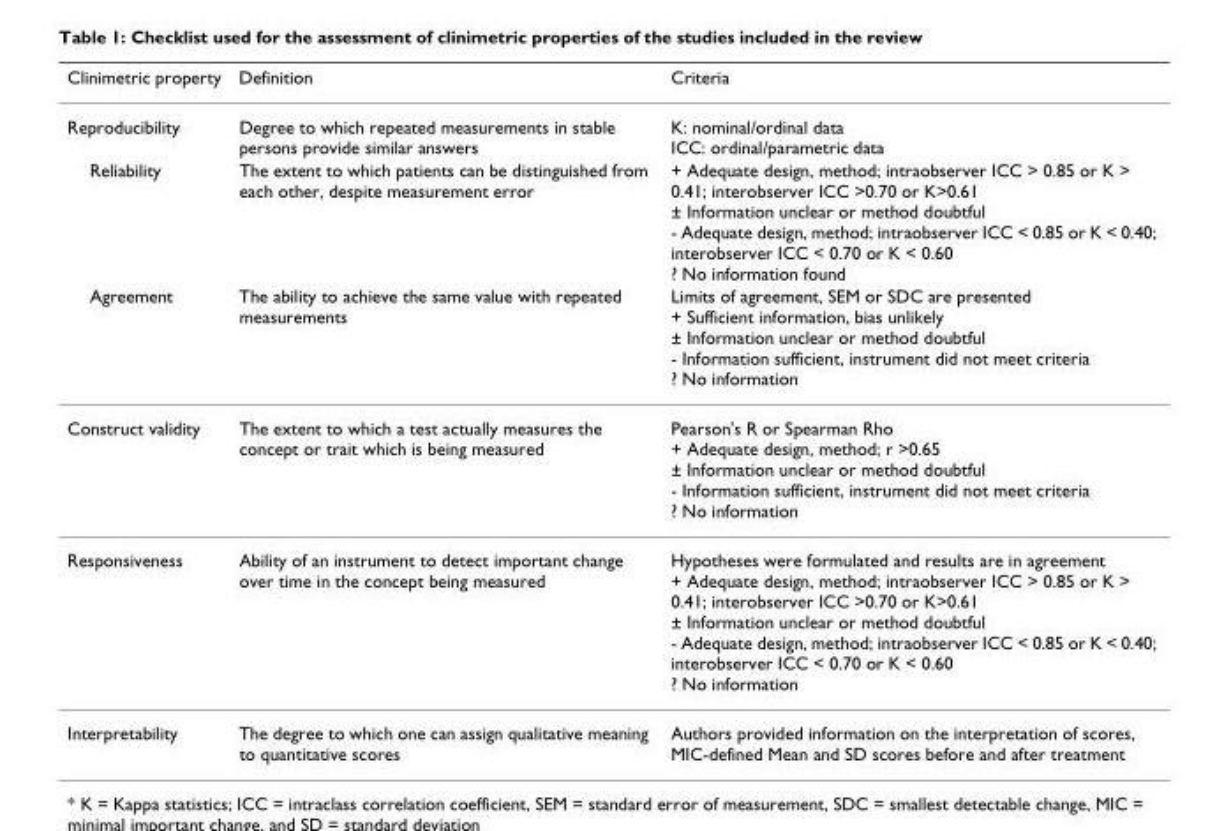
<table><thead><tr><td>Clinimetric property</td><td>Definition</td><td>Criteria</td></tr></thead><tbody><tr><td>Reproducibility</td><td>Degree to which repeated measurements in stable persons provide similar answers</td><td>K: nominal/ordinal data ICC: ordinal/parametric data</td></tr><tr><td>Reliability</td><td>The extent to which patients can be distinguished from each other, despite measurement error</td><td>+ Adequate design, method; intraobserver ICC &gt; 0.85 or K &gt; 0.41; interobserver ICC &gt;0.70 or K&gt;0.61 ± Information unclear or method doubtful - Adequate design, method; intraobserver ICC &lt; 0.85 or K &lt; 0.40; interobserver ICC &lt; 0.70 or K &lt; 0.60 ? No information found</td></tr><tr><td>Agreement</td><td>The ability to achieve the same value with repeated measurements</td><td>Limits of agreement, SEM or SDC are presented + Sufficient information, bias unlikely ± Information unclear or method doubtful - Information sufficient, instrument did not meet criteria ? No information</td></tr><tr><td>Construct validity</td><td>The extent to which a test actually measures the concept or trait which is being measured</td><td>Pearson&#x27;s R or Spearman Rho + Adequate design, method; r &gt;0.65 ± Information unclear or method doubtful - Information sufficient, instrument did not meet criteria ? No information</td></tr><tr><td>Responsiveness</td><td>Ability of an instrument to detect important change over time in the concept being measured</td><td>Hypotheses were formulated and results are in agreement + Adequate design, method; intraobserver ICC &gt; 0.85 or K &gt; 0.41; interobserver ICC &gt;0.70 or K&gt;0.61 ± Information unclear or method doubtful - Adequate design, method; intraobserver ICC &lt; 0.85 or K &lt; 0.40; interobserver ICC &lt; 0.70 or K &lt; 0.60 ? No information</td></tr><tr><td>Interpretability</td><td>The degree to which one can assign qualitative meaning to quantitative scores</td><td>Authors provided information on the interpretation of scores, MIC-defined Mean and SD scores before and after treatment</td></tr></tbody></table>